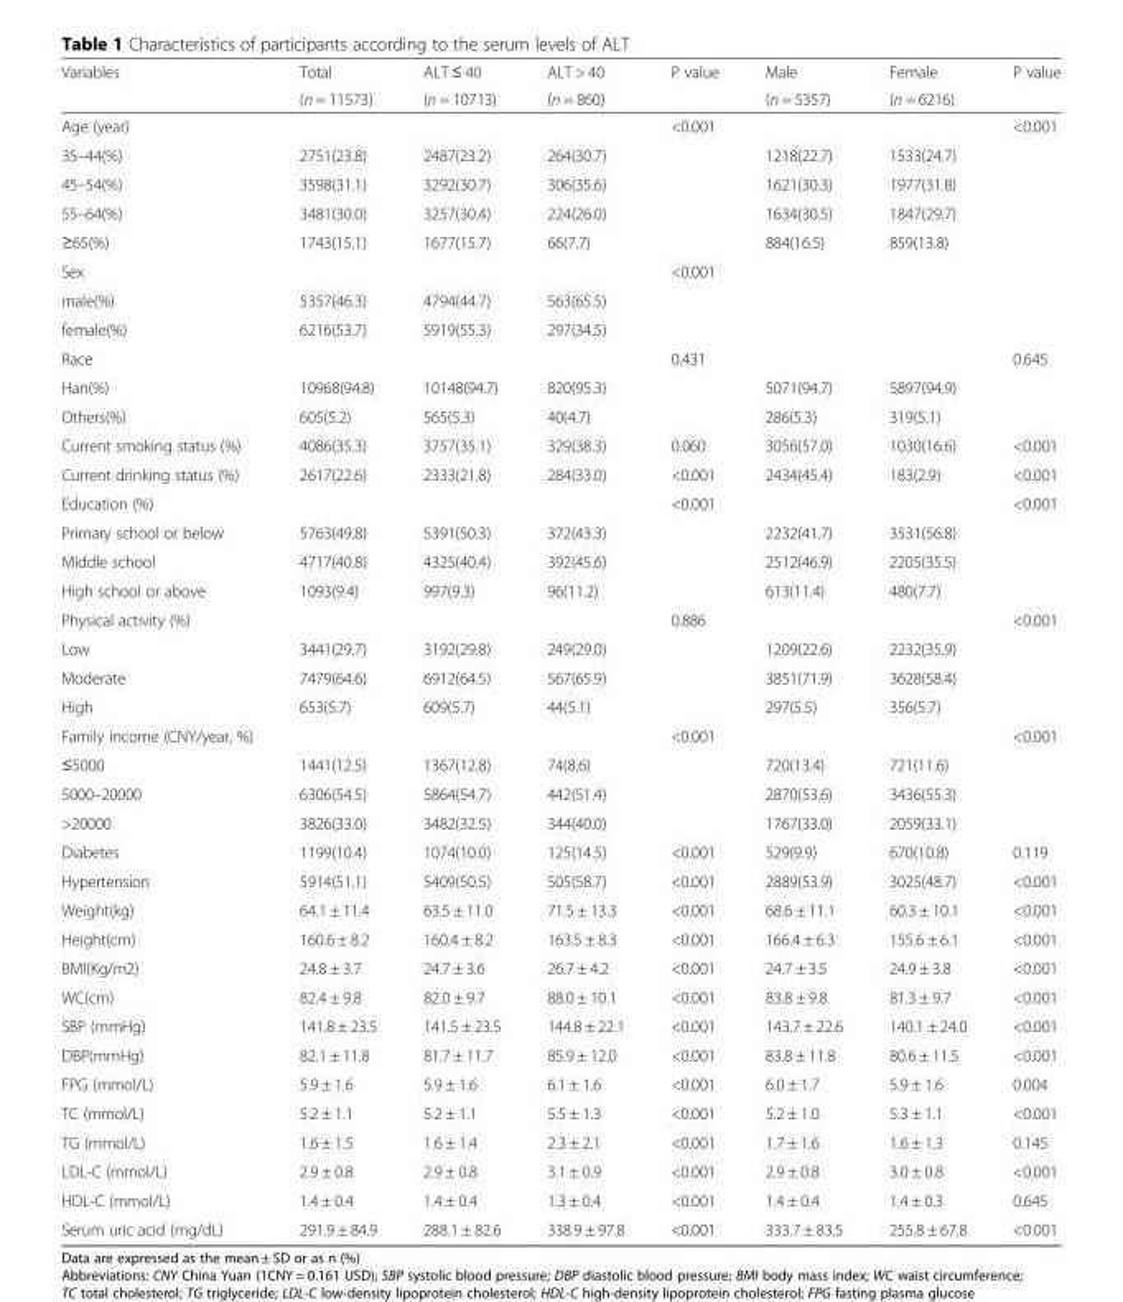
<table><thead><tr><td rowspan="2">Variables</td><td rowspan="2">Total (n = 11573)</td><td rowspan="2">ALT ≤ 40 (n = 10713)</td><td rowspan="2">ALT &gt; 40 (n = 860)</td><td rowspan="2">P value</td><td rowspan="2">Male (n = 5357)</td><td rowspan="2">Female (n = 6216)</td><td rowspan="2">P value</td></tr><tr></tr></thead><tbody><tr><td>Age (year)</td><td></td><td></td><td></td><td>&lt;0.001</td><td></td><td></td><td>&lt;0.001</td></tr><tr><td>35–44(%)</td><td>2751(23.8)</td><td>2487(23.2)</td><td>264(30.7)</td><td></td><td>1218(22.7)</td><td>1533(24.7)</td><td></td></tr><tr><td>45–54(%)</td><td>3598(31.1)</td><td>3292(30.7)</td><td>306(35.6)</td><td></td><td>1621(30.3)</td><td>1977(31.8)</td><td></td></tr><tr><td>55–64(%)</td><td>3481(30.0)</td><td>3257(30.4)</td><td>224(26.0)</td><td></td><td>1634(30.5)</td><td>1847(29.7)</td><td></td></tr><tr><td>≥65(%)</td><td>1743(15.1)</td><td>1677(15.7)</td><td>66(7.7)</td><td></td><td>884(16.5)</td><td>859(13.8)</td><td></td></tr><tr><td>Sex</td><td></td><td></td><td></td><td>&lt;0.001</td><td></td><td></td><td></td></tr><tr><td>male(%)</td><td>5357(46.3)</td><td>4794(44.7)</td><td>563(65.5)</td><td></td><td></td><td></td><td></td></tr><tr><td>female(%)</td><td>6216(53.7)</td><td>5919(55.3)</td><td>297(34.5)</td><td></td><td></td><td></td><td></td></tr><tr><td>Race</td><td></td><td></td><td></td><td>0.431</td><td></td><td></td><td>0.645</td></tr><tr><td>Han(%)</td><td>10968(94.8)</td><td>10148(94.7)</td><td>820(95.3)</td><td></td><td>5071(94.7)</td><td>5897(94.9)</td><td></td></tr><tr><td>Others(%)</td><td>605(5.2)</td><td>565(5.3)</td><td>40(4.7)</td><td></td><td>286(5.3)</td><td>319(5.1)</td><td></td></tr><tr><td>Current smoking status (%)</td><td>4086(35.3)</td><td>3757(35.1)</td><td>329(38.3)</td><td>0.060</td><td>3056(57.0)</td><td>1030(16.6)</td><td>&lt;0.001</td></tr><tr><td>Current drinking status (%)</td><td>2617(22.6)</td><td>2333(21.8)</td><td>284(33.0)</td><td>&lt;0.001</td><td>2434(45.4)</td><td>183(2.9)</td><td>&lt;0.001</td></tr><tr><td>Education (%)</td><td></td><td></td><td></td><td>&lt;0.001</td><td></td><td></td><td>&lt;0.001</td></tr><tr><td>Primary school or below</td><td>5763(49.8)</td><td>5391(50.3)</td><td>372(43.3)</td><td></td><td>2232(41.7)</td><td>3531(56.8)</td><td></td></tr><tr><td>Middle school</td><td>4717(40.8)</td><td>4325(40.4)</td><td>392(45.6)</td><td></td><td>2512(46.9)</td><td>2205(35.5)</td><td></td></tr><tr><td>High school or above</td><td>1093(9.4)</td><td>997(9.3)</td><td>96(11.2)</td><td></td><td>613(11.4)</td><td>480(7.7)</td><td></td></tr><tr><td>Physical activity (%)</td><td></td><td></td><td></td><td>0.886</td><td></td><td></td><td>&lt;0.001</td></tr><tr><td>Low</td><td>3441(29.7)</td><td>3192(29.8)</td><td>249(29.0)</td><td></td><td>1209(22.6)</td><td>2232(35.9)</td><td></td></tr><tr><td>Moderate</td><td>7479(64.6)</td><td>6912(64.5)</td><td>567(65.9)</td><td></td><td>3851(71.9)</td><td>3628(58.4)</td><td></td></tr><tr><td>High</td><td>653(5.7)</td><td>609(5.7)</td><td>44(5.1)</td><td></td><td>297(5.5)</td><td>356(5.7)</td><td></td></tr><tr><td>Family income (CNY/year, %)</td><td></td><td></td><td></td><td>&lt;0.001</td><td></td><td></td><td>&lt;0.001</td></tr><tr><td>≤5000</td><td>1441(12.5)</td><td>1367(12.8)</td><td>74(8.6)</td><td></td><td>720(13.4)</td><td>721(11.6)</td><td></td></tr><tr><td>5000–20000</td><td>6306(54.5)</td><td>5864(54.7)</td><td>442(51.4)</td><td></td><td>2870(53.6)</td><td>3436(55.3)</td><td></td></tr><tr><td>&gt;20000</td><td>3826(33.0)</td><td>3482(32.5)</td><td>344(40.0)</td><td></td><td>1767(33.0)</td><td>2059(33.1)</td><td></td></tr><tr><td>Diabetes</td><td>1199(10.4)</td><td>1074(10.0)</td><td>125(14.5)</td><td>&lt;0.001</td><td>529(9.9)</td><td>670(10.8)</td><td>0.119</td></tr><tr><td>Hypertension</td><td>5914(51.1)</td><td>5409(50.5)</td><td>505(58.7)</td><td>&lt;0.001</td><td>2889(53.9)</td><td>3025(48.7)</td><td>&lt;0.001</td></tr><tr><td>Weight(kg)</td><td>64.1 ± 11.4</td><td>63.5 ± 11.0</td><td>71.5 ± 13.3</td><td>&lt;0.001</td><td>68.6 ± 11.1</td><td>60.3 ± 10.1</td><td>&lt;0.001</td></tr><tr><td>Height(cm)</td><td>160.6 ± 8.2</td><td>160.4 ± 8.2</td><td>163.5 ± 8.3</td><td>&lt;0.001</td><td>166.4 ± 6.3</td><td>155.6 ± 6.1</td><td>&lt;0.001</td></tr><tr><td>BMI(Kg/m2)</td><td>24.8 ± 3.7</td><td>24.7 ± 3.6</td><td>26.7 ± 4.2</td><td>&lt;0.001</td><td>24.7 ± 3.5</td><td>24.9 ± 3.8</td><td>&lt;0.001</td></tr><tr><td>WC(cm)</td><td>82.4 ± 9.8</td><td>82.0 ± 9.7</td><td>88.0 ± 10.1</td><td>&lt;0.001</td><td>83.8 ± 9.8</td><td>81.3 ± 9.7</td><td>&lt;0.001</td></tr><tr><td>SBP (mmHg)</td><td>141.8 ± 23.5</td><td>141.5 ± 23.5</td><td>144.8 ± 22.1</td><td>&lt;0.001</td><td>143.7 ± 22.6</td><td>140.1 ± 24.0</td><td>&lt;0.001</td></tr><tr><td>DBP(mmHg)</td><td>82.1 ± 11.8</td><td>81.7 ± 11.7</td><td>85.9 ± 12.0</td><td>&lt;0.001</td><td>83.8 ± 11.8</td><td>80.6 ± 11.5</td><td>&lt;0.001</td></tr><tr><td>FPG (mmol/L)</td><td>5.9 ± 1.6</td><td>5.9 ± 1.6</td><td>6.1 ± 1.6</td><td>&lt;0.001</td><td>6.0 ± 1.7</td><td>5.9 ± 1.6</td><td>0.004</td></tr><tr><td>TC (mmol/L)</td><td>5.2 ± 1.1</td><td>5.2 ± 1.1</td><td>5.5 ± 1.3</td><td>&lt;0.001</td><td>5.2 ± 1.0</td><td>5.3 ± 1.1</td><td>&lt;0.001</td></tr><tr><td>TG (mmol/L)</td><td>1.6 ± 1.5</td><td>1.6 ± 1.4</td><td>2.3 ± 2.1</td><td>&lt;0.001</td><td>1.7 ± 1.6</td><td>1.6 ± 1.3</td><td>0.145</td></tr><tr><td>LDL-C (mmol/L)</td><td>2.9 ± 0.8</td><td>2.9 ± 0.8</td><td>3.1 ± 0.9</td><td>&lt;0.001</td><td>2.9 ± 0.8</td><td>3.0 ± 0.8</td><td>&lt;0.001</td></tr><tr><td>HDL-C (mmol/L)</td><td>1.4 ± 0.4</td><td>1.4 ± 0.4</td><td>1.3 ± 0.4</td><td>&lt;0.001</td><td>1.4 ± 0.4</td><td>1.4 ± 0.3</td><td>0.645</td></tr><tr><td>Serum uric acid (mg/dL)</td><td>291.9 ± 84.9</td><td>288.1 ± 82.6</td><td>338.9 ± 97.8</td><td>&lt;0.001</td><td>333.7 ± 83.5</td><td>255.8 ± 67.8</td><td>&lt;0.001</td></tr></tbody></table>